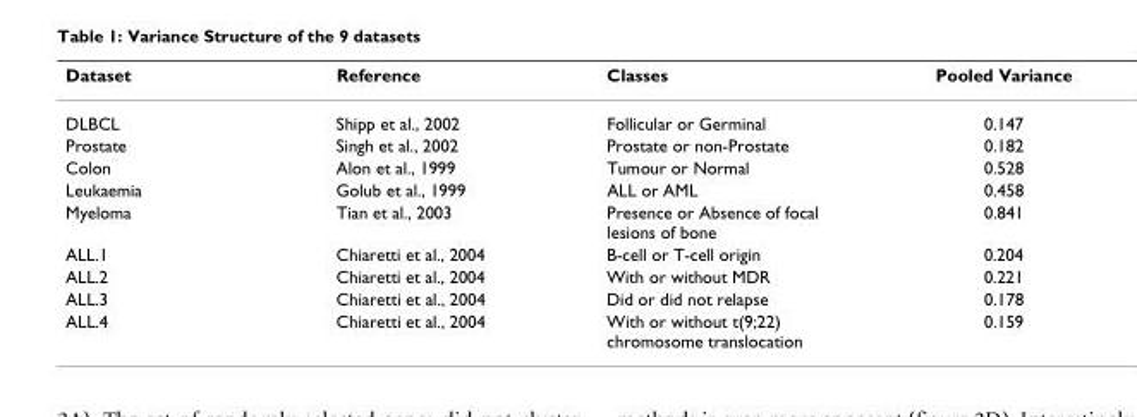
<table><thead><tr><td>Dataset</td><td>Reference</td><td>Classes</td><td>Pooled Variance</td></tr></thead><tbody><tr><td>DLBCL</td><td>Shipp et al., 2002</td><td>Follicular or Germinal</td><td>0.147</td></tr><tr><td>Prostate</td><td>Singh et al., 2002</td><td>Prostate or non-Prostate</td><td>0.182</td></tr><tr><td>Colon</td><td>Alon et al., 1999</td><td>Tumour or Normal</td><td>0.528</td></tr><tr><td>Leukaemia</td><td>Golub et al., 1999</td><td>ALL or AML</td><td>0.458</td></tr><tr><td>Myeloma</td><td>Tian et al., 2003</td><td>Presence or Absence of focal lesions of bone</td><td>0.841</td></tr><tr><td>ALL.1</td><td>Chiaretti et al., 2004</td><td>B-cell or T-cell origin</td><td>0.204</td></tr><tr><td>ALL.2</td><td>Chiaretti et al., 2004</td><td>With or without MDR</td><td>0.221</td></tr><tr><td>ALL.3</td><td>Chiaretti et al., 2004</td><td>Did or did not relapse</td><td>0.178</td></tr><tr><td>ALL.4</td><td>Chiaretti et al., 2004</td><td>With or without t(9;22) chromosome translocation</td><td>0.159</td></tr></tbody></table>